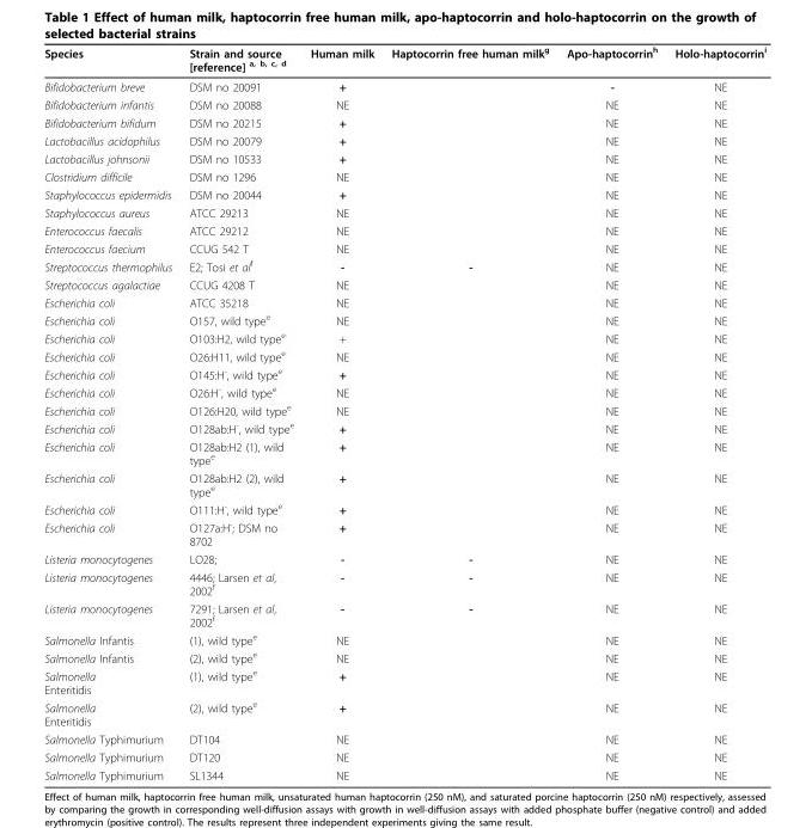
<table><thead><tr><td>Species</td><td>Strain and source [reference] <sup>a, b, c, d</sup></td><td>Human milk</td><td>Haptocorrin free human milk<sup>g</sup></td><td>Apo-haptocorrin<sup>h</sup></td><td>Holo-haptocorrin<sup>i</sup></td></tr></thead><tbody><tr><td>Bifidobacterium breve</td><td>DSM no 20091</td><td>+</td><td></td><td>-</td><td>NE</td></tr><tr><td>Bifidobacterium infantis</td><td>DSM no 20088</td><td>NE</td><td></td><td>NE</td><td>NE</td></tr><tr><td>Bifidobacterium bifidum</td><td>DSM no 20215</td><td>+</td><td></td><td>NE</td><td>NE</td></tr><tr><td>Lactobacillus acidophilus</td><td>DSM no 20079</td><td>+</td><td></td><td>NE</td><td>NE</td></tr><tr><td>Lactobacillus johnsonii</td><td>DSM no 10533</td><td>+</td><td></td><td>NE</td><td>NE</td></tr><tr><td>Clostridium difficile</td><td>DSM no 1296</td><td>NE</td><td></td><td>NE</td><td>NE</td></tr><tr><td>Staphylococcus epidermidis</td><td>DSM no 20044</td><td>+</td><td></td><td>NE</td><td>NE</td></tr><tr><td>Staphylococcus aureus</td><td>ATCC 29213</td><td>NE</td><td></td><td>NE</td><td>NE</td></tr><tr><td>Enterococcus faecalis</td><td>ATCC 29212</td><td>NE</td><td></td><td>NE</td><td>NE</td></tr><tr><td>Enterococcus faecium</td><td>CCUG 542 T</td><td>NE</td><td></td><td>NE</td><td>NE</td></tr><tr><td>Streptococcus thermophilus</td><td>E2; Tosi et al<sup>f</sup></td><td>-</td><td>-</td><td>NE</td><td>NE</td></tr><tr><td>Streptococcus agalactiae</td><td>CCUG 4208 T</td><td>NE</td><td></td><td>NE</td><td>NE</td></tr><tr><td>Escherichia coli</td><td>ATCC 35218</td><td>NE</td><td></td><td>NE</td><td>NE</td></tr><tr><td>Escherichia coli</td><td>O157, wild type<sup>e</sup></td><td>NE</td><td></td><td>NE</td><td>NE</td></tr><tr><td>Escherichia coli</td><td>O103:H2, wild type<sup>e</sup></td><td>+</td><td></td><td>NE</td><td>NE</td></tr><tr><td>Escherichia coli</td><td>O26:H11, wild type<sup>e</sup></td><td>NE</td><td></td><td>NE</td><td>NE</td></tr><tr><td>Escherichia coli</td><td>O145:H<sup>-</sup>, wild type<sup>e</sup></td><td>+</td><td></td><td>NE</td><td>NE</td></tr><tr><td>Escherichia coli</td><td>O26:H<sup>-</sup>, wild type<sup>e</sup></td><td>NE</td><td></td><td>NE</td><td>NE</td></tr><tr><td>Escherichia coli</td><td>O126:H20, wild type<sup>e</sup></td><td>NE</td><td></td><td>NE</td><td>NE</td></tr><tr><td>Escherichia coli</td><td>O128ab:H<sup>-</sup>, wild type<sup>e</sup></td><td>+</td><td></td><td>NE</td><td>NE</td></tr><tr><td>Escherichia coli</td><td>O128ab:H2 (1), wild type<sup>e</sup></td><td>+</td><td></td><td>NE</td><td>NE</td></tr><tr><td>Escherichia coli</td><td>O128ab:H2 (2), wild type<sup>e</sup></td><td>+</td><td></td><td>NE</td><td>NE</td></tr><tr><td>Escherichia coli</td><td>O111:H<sup>-</sup>, wild type<sup>e</sup></td><td>+</td><td></td><td>NE</td><td>NE</td></tr><tr><td>Escherichia coli</td><td>O127a:H<sup>-</sup>; DSM no 8702</td><td>+</td><td></td><td>NE</td><td>NE</td></tr><tr><td>Listeria monocytogenes</td><td>LO28;</td><td>-</td><td>-</td><td>NE</td><td>NE</td></tr><tr><td>Listeria monocytogenes</td><td>4446; Larsen et al, 2002<sup>f</sup></td><td>-</td><td>-</td><td>NE</td><td>NE</td></tr><tr><td>Listeria monocytogenes</td><td>7291; Larsen et al, 2002<sup>f</sup></td><td>-</td><td>-</td><td>NE</td><td>NE</td></tr><tr><td>Salmonella Infantis</td><td>(1), wild type<sup>e</sup></td><td>NE</td><td></td><td>NE</td><td>NE</td></tr><tr><td>Salmonella Infantis</td><td>(2), wild type<sup>e</sup></td><td>NE</td><td></td><td>NE</td><td>NE</td></tr><tr><td>Salmonella Enteritidis</td><td>(1), wild type<sup>e</sup></td><td>+</td><td></td><td>NE</td><td>NE</td></tr><tr><td>Salmonella Enteritidis</td><td>(2), wild type<sup>e</sup></td><td>+</td><td></td><td>NE</td><td>NE</td></tr><tr><td>Salmonella Typhimurium</td><td>DT104</td><td>NE</td><td></td><td>NE</td><td>NE</td></tr><tr><td>Salmonella Typhimurium</td><td>DT120</td><td>NE</td><td></td><td>NE</td><td>NE</td></tr><tr><td>Salmonella Typhimurium</td><td>SL1344</td><td>NE</td><td></td><td>NE</td><td>NE</td></tr></tbody></table>